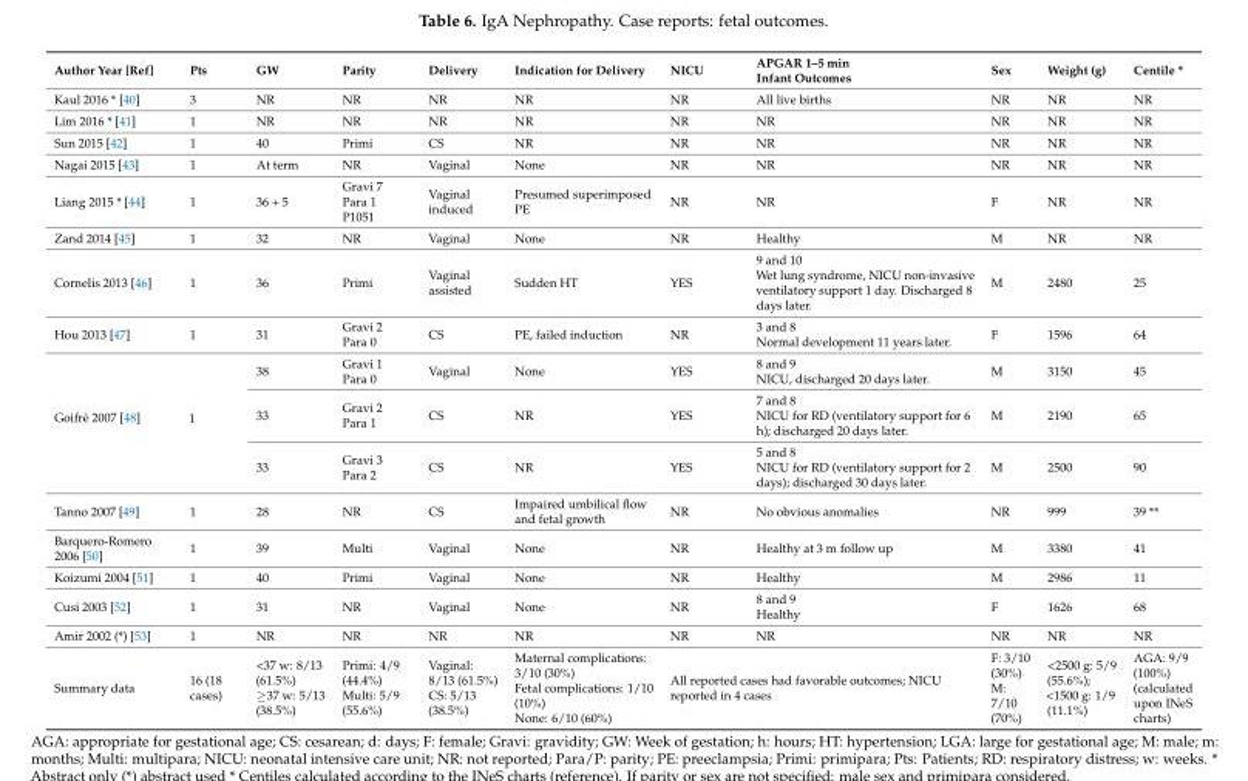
<table><thead><tr><td>Author Year [Ref]</td><td>Pts</td><td>GW</td><td>Parity</td><td>Delivery</td><td>Indication for Delivery</td><td>NICU</td><td>APGAR 1–5 min Infant Outcomes</td><td>Sex</td><td>Weight (g)</td><td>Centile *</td></tr></thead><tbody><tr><td>Kaul 2016 * [40]</td><td>3</td><td>NR</td><td>NR</td><td>NR</td><td>NR</td><td>NR</td><td>All live births</td><td>NR</td><td>NR</td><td>NR</td></tr><tr><td>Lim 2016 * [41]</td><td>1</td><td>NR</td><td>NR</td><td>NR</td><td>NR</td><td>NR</td><td>NR</td><td>NR</td><td>NR</td><td>NR</td></tr><tr><td>Sun 2015 [42]</td><td>1</td><td>40</td><td>Primi</td><td>CS</td><td>NR</td><td>NR</td><td>NR</td><td>NR</td><td>NR</td><td>NR</td></tr><tr><td>Nagai 2015 [43]</td><td>1</td><td>At term</td><td>NR</td><td>Vaginal</td><td>None</td><td>NR</td><td>NR</td><td>NR</td><td>NR</td><td>NR</td></tr><tr><td>Liang 2015 * [44]</td><td>1</td><td>36 + 5</td><td>Gravi 7 Para 1 P1051</td><td>Vaginal induced</td><td>Presumed superimposed PE</td><td>NR</td><td>NR</td><td>F</td><td>NR</td><td>NR</td></tr><tr><td>Zand 2014 [45]</td><td>1</td><td>32</td><td>NR</td><td>Vaginal</td><td>None</td><td>NR</td><td>Healthy</td><td>M</td><td>NR</td><td>NR</td></tr><tr><td>Cornelis 2013 [46]</td><td>1</td><td>36</td><td>Primi</td><td>Vaginal assisted</td><td>Sudden HT</td><td>YES</td><td>9 and 10 Wet lung syndrome, NICU non-invasive ventilatory support 1 day. Discharged 8 days later.</td><td>M</td><td>2480</td><td>25</td></tr><tr><td>Hou 2013 [47]</td><td>1</td><td>31</td><td>Gravi 2 Para 0</td><td>CS</td><td>PE, failed induction</td><td>NR</td><td>3 and 8 Normal development 11 years later.</td><td>F</td><td>1596</td><td>64</td></tr><tr><td rowspan="3">Goifrè 2007 [48]</td><td rowspan="3">1</td><td>38</td><td>Gravi 1 Para 0</td><td>Vaginal</td><td>None</td><td>YES</td><td>8 and 9 NICU, discharged 20 days later.</td><td>M</td><td>3150</td><td>45</td></tr><tr><td>33</td><td>Gravi 2 Para 1</td><td>CS</td><td>NR</td><td>YES</td><td>7 and 8 NICU for RD (ventilatory support for 6 h); discharged 20 days later.</td><td>M</td><td>2190</td><td>65</td></tr><tr><td>33</td><td>Gravi 3 Para 2</td><td>CS</td><td>NR</td><td>YES</td><td>5 and 8 NICU for RD (ventilatory support for 2 days); discharged 30 days later.</td><td>M</td><td>2500</td><td>90</td></tr><tr><td>Tanno 2007 [49]</td><td>1</td><td>28</td><td>NR</td><td>CS</td><td>Impaired umbilical flow and fetal growth</td><td>NR</td><td>No obvious anomalies</td><td>NR</td><td>999</td><td>39 **</td></tr><tr><td>Barquero-Romero 2006 [50]</td><td>1</td><td>39</td><td>Multi</td><td>Vaginal</td><td>None</td><td>NR</td><td>Healthy at 3 m follow up</td><td>M</td><td>3380</td><td>41</td></tr><tr><td>Koizumi 2004 [51]</td><td>1</td><td>40</td><td>Primi</td><td>Vaginal</td><td>None</td><td>NR</td><td>Healthy</td><td>M</td><td>2986</td><td>11</td></tr><tr><td>Cusi 2003 [52]</td><td>1</td><td>31</td><td>NR</td><td>Vaginal</td><td>None</td><td>NR</td><td>8 and 9 Healthy</td><td>F</td><td>1626</td><td>68</td></tr><tr><td>Amir 2002 (*) [53]</td><td>1</td><td>NR</td><td>NR</td><td>NR</td><td>NR</td><td>NR</td><td>NR</td><td>NR</td><td>NR</td><td>NR</td></tr><tr><td>Summary data</td><td>16 (18 cases)</td><td>&lt;37 w: 8/13 (61.5%) ≥37 w: 5/13 (38.5%)</td><td>Primi: 4/9 (44.4%) Multi: 5/9 (55.6%)</td><td>Vaginal: 8/13 (61.5%) CS: 5/13 (38.5%)</td><td>Maternal complications: 3/10 (30%) Fetal complications: 1/10 (10%) None: 6/10 (60%)</td><td colspan="2">All reported cases had favorable outcomes; NICU reported in 4 cases</td><td>F: 3/10 (30%) M: 7/10 (70%)</td><td>&lt;2500 g: 5/9 (55.6%); &lt;1500 g: 1/9 (11.1%)</td><td>AGA: 9/9 (100%) (calculated upon INeS charts)</td></tr></tbody></table>